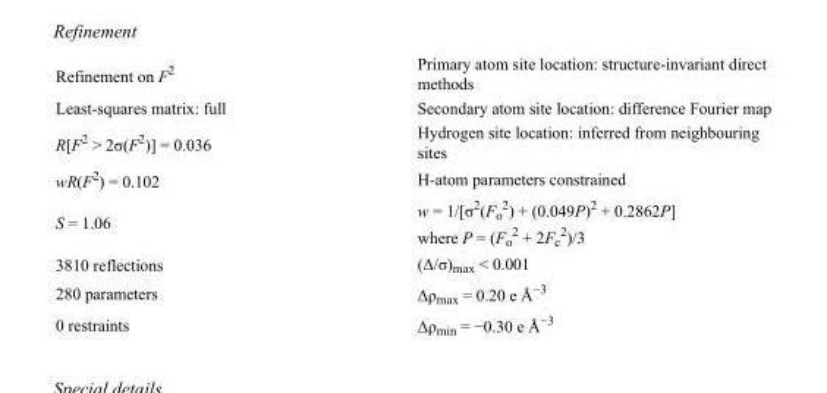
<table><tbody><tr><td>Refinement on F<sup>2</sup></td><td>Primary atom site location: structure-invariant direct methods</td></tr><tr><td>Least-squares matrix: full</td><td>Secondary atom site location: difference Fourier map</td></tr><tr><td>R[F<sup>2</sup> &gt; 2σ(F<sup>2</sup>)] = 0.036</td><td>Hydrogen site location: inferred from neighbouring sites</td></tr><tr><td>wR(F<sup>2</sup>) = 0.102</td><td>H-atom parameters constrained</td></tr><tr><td>S = 1.06</td><td>w = 1/[σ<sup>2</sup>(F<sub>o</sub> <sup>2</sup>) + (0.049P)<sup>2</sup> + 0.2862P] where P = (F<sub>o</sub> <sup>2</sup> + 2F<sub>c</sub> <sup>2</sup>)/3</td></tr><tr><td>3810 reflections</td><td>(Δ/σ)<sub>max</sub> &lt; 0.001</td></tr><tr><td>280 parameters</td><td>Δρ<sub>max</sub> = 0.20 e Å<sup>−3</sup></td></tr><tr><td>0 restraints</td><td>Δρ<sub>min</sub> = −0.30 e Å<sup>−3</sup></td></tr></tbody></table>